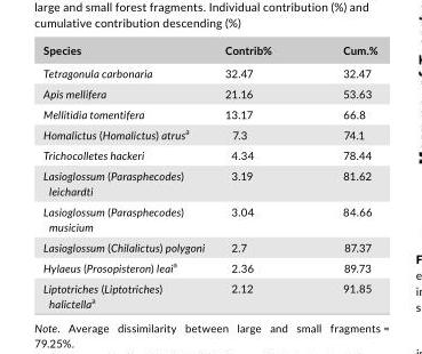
<table><thead><tr><td>Species</td><td>Contrib%</td><td>Cum.%</td></tr></thead><tbody><tr><td>Tetragonula carbonaria</td><td>32.47</td><td>32.47</td></tr><tr><td>Apis mellifera</td><td>21.16</td><td>53.63</td></tr><tr><td>Mellitidia tomentifera</td><td>13.17</td><td>66.8</td></tr><tr><td>Homalictus (Homalictus) atrusa</td><td>7.3</td><td>74.1</td></tr><tr><td>Trichocolletes hackeri</td><td>4.34</td><td>78.44</td></tr><tr><td>Lasioglossum (Parasphecodes) leichardti</td><td>3.19</td><td>81.62</td></tr><tr><td>Lasioglossum (Parasphecodes) musicium</td><td>3.04</td><td>84.66</td></tr><tr><td>Lasioglossum (Chilalictus) polygoni</td><td>2.7</td><td>87.37</td></tr><tr><td>Hylaeus (Prosopisteron) leaia</td><td>2.36</td><td>89.73</td></tr><tr><td>Liptotriches (Liptotriches) halictellaa</td><td>2.12</td><td>91.85</td></tr></tbody></table>